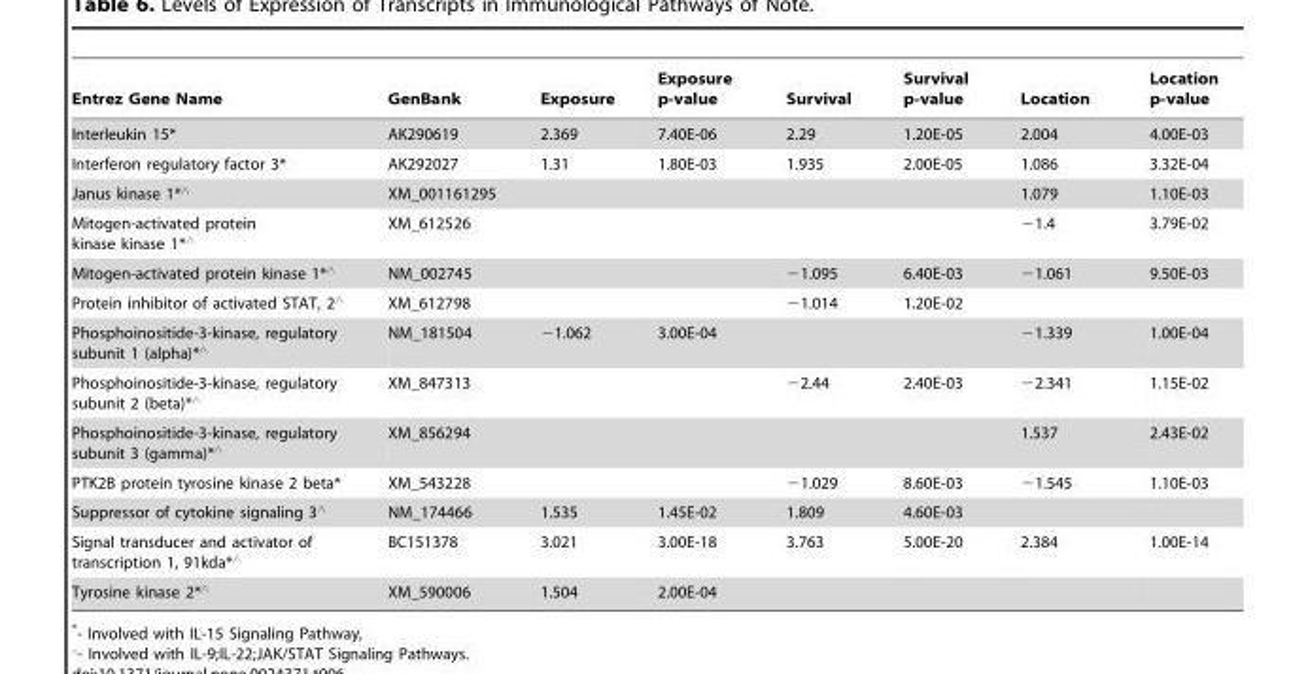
<table><thead><tr><td>Entrez Gene Name</td><td>GenBank</td><td>Exposure</td><td>Exposure p-value</td><td>Survival</td><td>Survival p-value</td><td>Location</td><td>Location p-value</td></tr></thead><tbody><tr><td>Interleukin 15*</td><td>AK290619</td><td>2.369</td><td>7.40E-06</td><td>2.29</td><td>1.20E-05</td><td>2.004</td><td>4.00E-03</td></tr><tr><td>Interferon regulatory factor 3*</td><td>AK292027</td><td>1.31</td><td>1.80E-03</td><td>1.935</td><td>2.00E-05</td><td>1.086</td><td>3.32E-04</td></tr><tr><td>Janus kinase 1*‘</td><td>XM_001161295</td><td></td><td></td><td></td><td></td><td>1.079</td><td>1.10E-03</td></tr><tr><td>Mitogen-activated protein kinase kinase 1*‘</td><td>XM_612526</td><td></td><td></td><td></td><td></td><td>−1.4</td><td>3.79E-02</td></tr><tr><td>Mitogen-activated protein kinase 1*‘</td><td>NM_002745</td><td></td><td></td><td>−1.095</td><td>6.40E-03</td><td>−1.061</td><td>9.50E-03</td></tr><tr><td>Protein inhibitor of activated STAT, 2‘</td><td>XM_612798</td><td></td><td></td><td>−1.014</td><td>1.20E-02</td><td></td><td></td></tr><tr><td>Phosphoinositide-3-kinase, regulatory subunit 1 (alpha)*‘</td><td>NM_181504</td><td>−1.062</td><td>3.00E-04</td><td></td><td></td><td>−1.339</td><td>1.00E-04</td></tr><tr><td>Phosphoinositide-3-kinase, regulatory subunit 2 (beta)*‘</td><td>XM_847313</td><td></td><td></td><td>−2.44</td><td>2.40E-03</td><td>−2.341</td><td>1.15E-02</td></tr><tr><td>Phosphoinositide-3-kinase, regulatory subunit 3 (gamma)*‘</td><td>XM_856294</td><td></td><td></td><td></td><td></td><td>1.537</td><td>2.43E-02</td></tr><tr><td>PTK2B protein tyrosine kinase 2 beta*</td><td>XM_543228</td><td></td><td></td><td>−1.029</td><td>8.60E-03</td><td>−1.545</td><td>1.10E-03</td></tr><tr><td>Suppressor of cytokine signaling 3‘</td><td>NM_174466</td><td>1.535</td><td>1.45E-02</td><td>1.809</td><td>4.60E-03</td><td></td><td></td></tr><tr><td>Signal transducer and activator of transcription 1, 91kda*‘</td><td>BC151378</td><td>3.021</td><td>3.00E-18</td><td>3.763</td><td>5.00E-20</td><td>2.384</td><td>1.00E-14</td></tr><tr><td>Tyrosine kinase 2*‘</td><td>XM_590006</td><td>1.504</td><td>2.00E-04</td><td></td><td></td><td></td><td></td></tr></tbody></table>